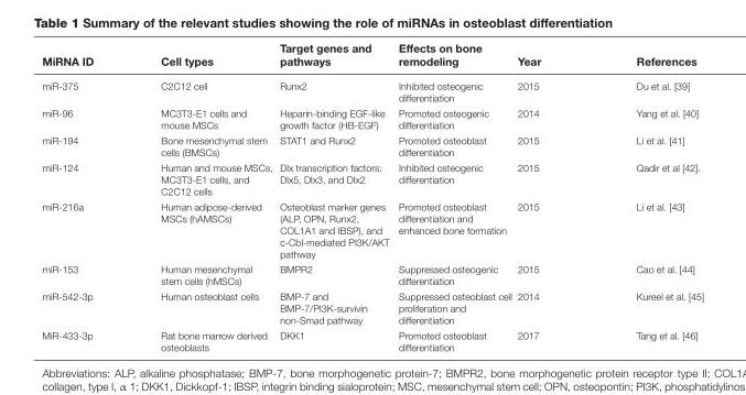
<table><thead><tr><td>MiRNA ID</td><td>Cell types</td><td>Target genes and pathways</td><td>Effects on bone remodeling</td><td>Year</td><td>References</td></tr></thead><tbody><tr><td>miR-375</td><td>C2C12 cell</td><td>Runx2</td><td>Inhibited osteogenic differentiation</td><td>2015</td><td>Du et al. [39]</td></tr><tr><td>miR-96</td><td>MC3T3-E1 cells and mouse MSCs</td><td>Heparin-binding EGF-like growth factor (HB-EGF)</td><td>Promoted osteogenic differentiation</td><td>2014</td><td>Yang et al. [40]</td></tr><tr><td>miR-194</td><td>Bone mesenchymal stem cells (BMSCs)</td><td>STAT1 and Runx2</td><td>Promoted osteoblast differentiation</td><td>2015</td><td>Li et al. [41]</td></tr><tr><td>miR-124</td><td>Human and mouse MSCs, MC3T3-E1 cells, and C2C12 cells</td><td>Dlx transcription factors: Dlx5, Dlx3, and Dlx2</td><td>Inhibited osteogenic differentiation</td><td>2015</td><td>Qadir et al [42].</td></tr><tr><td>miR-216a</td><td>Human adipose-derived MSCs (hAMSCs)</td><td>Osteoblast marker genes (ALP, OPN, Runx2, COL1A1 and IBSP), and c-Cbl-mediated PI3K/AKT pathway</td><td>Promoted osteoblast differentiation and enhanced bone formation</td><td>2015</td><td>Li et al. [43]</td></tr><tr><td>miR-153</td><td>Human mesenchymal stem cells (hMSCs)</td><td>BMPR2</td><td>Suppressed osteogenic differentiation</td><td>2015</td><td>Cao et al. [44]</td></tr><tr><td>miR-542-3p</td><td>Human osteoblast cells</td><td>BMP-7 and BMP-7/PI3K-survivin non-Smad pathway</td><td>Suppressed osteoblast cell proliferation and differentiation</td><td>2014</td><td>Kureel et al. [45]</td></tr><tr><td>MiR-433-3p</td><td>Rat bone marrow derived osteoblasts</td><td>DKK1</td><td>Promoted osteoblast differentiation</td><td>2017</td><td>Tang et al. [46]</td></tr></tbody></table>